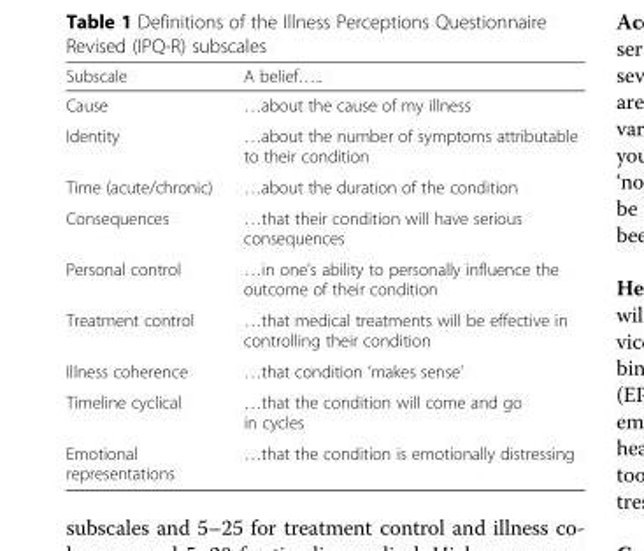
<table><thead><tr><td>Subscale</td><td>A belief…..</td></tr></thead><tbody><tr><td>Cause</td><td>…about the cause of my illness</td></tr><tr><td>Identity</td><td>…about the number of symptoms attributable to their condition</td></tr><tr><td>Time (acute/chronic)</td><td>…about the duration of the condition</td></tr><tr><td>Consequences</td><td>…that their condition will have serious consequences</td></tr><tr><td>Personal control</td><td>…in one’s ability to personally influence the outcome of their condition</td></tr><tr><td>Treatment control</td><td>…that medical treatments will be effective in controlling their condition</td></tr><tr><td>Illness coherence</td><td>…that condition ‘makes sense’</td></tr><tr><td>Timeline cyclical</td><td>…that the condition will come and go in cycles</td></tr><tr><td>Emotional representations</td><td>…that the condition is emotionally distressing</td></tr></tbody></table>